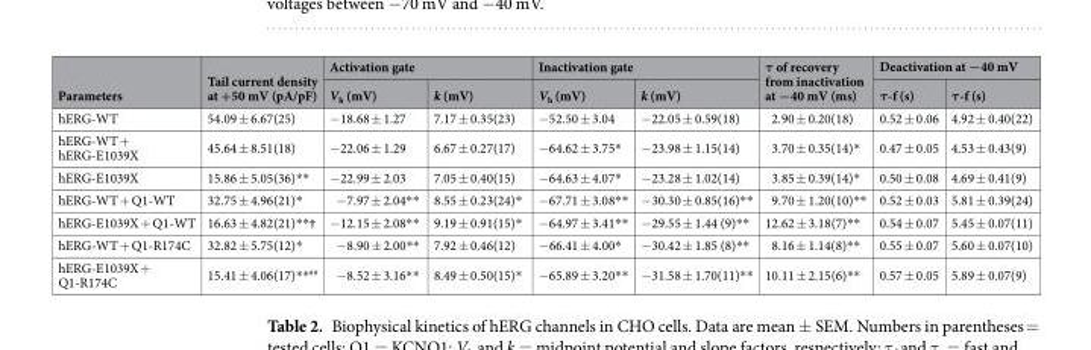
<table><thead><tr><td rowspan="2">Parameters</td><td rowspan="2">Tail current density at +50 mV (pA/pF)</td><td colspan="2">Activation gate</td><td colspan="2">Inactivation gate</td><td rowspan="2">τ of recovery from inactivation at −40 mV (ms)</td><td colspan="2">Deactivation at −40 mV</td></tr><tr><td>V<sub>h</sub> (mV)</td><td>k (mV)</td><td>V<sub>h</sub> (mV)</td><td>k (mV)</td><td>τ-f (s)</td><td>τ-f (s)</td></tr></thead><tbody><tr><td>hERG-WT</td><td>54.09 ± 6.67(25)</td><td>−18.68 ± 1.27</td><td>7.17 ± 0.35(23)</td><td>−52.50 ± 3.04</td><td>−22.05 ± 0.59(18)</td><td>2.90 ± 0.20(18)</td><td>0.52 ± 0.06</td><td>4.92 ± 0.40(22)</td></tr><tr><td>hERG-WT + hERG-E1039X</td><td>45.64 ± 8.51(18)</td><td>−22.06 ± 1.29</td><td>6.67 ± 0.27(17)</td><td>−64.62 ± 3.75*</td><td>−23.98 ± 1.15(14)</td><td>3.70 ± 0.35(14)*</td><td>0.47 ± 0.05</td><td>4.53 ± 0.43(9)</td></tr><tr><td>hERG-E1039X</td><td>15.86 ± 5.05(36)**</td><td>−22.99 ± 2.03</td><td>7.05 ± 0.40(15)</td><td>−64.63 ± 4.07*</td><td>−23.28 ± 1.02(14)</td><td>3.85 ± 0.39(14)*</td><td>0.50 ± 0.08</td><td>4.69 ± 0.41(9)</td></tr><tr><td>hERG-WT + Q1-WT</td><td>32.75 ± 4.96(21)*</td><td>−7.97 ± 2.04**</td><td>8.55 ± 0.23(24)*</td><td>−67.71 ± 3.08**</td><td>−30.30 ± 0.85(16)**</td><td>9.70 ± 1.20(10)**</td><td>0.52 ± 0.03</td><td>5.81 ± 0.39(24)</td></tr><tr><td>hERG-E1039X + Q1-WT</td><td>16.63 ± 4.82(21)**†</td><td>−12.15 ± 2.08**</td><td>9.19 ± 0.91(15)*</td><td>−64.97 ± 3.41**</td><td>−29.55 ± 1.44 (9)**</td><td>12.62 ± 3.18(7)**</td><td>0.54 ± 0.07</td><td>5.45 ± 0.07(11)</td></tr><tr><td>hERG-WT + Q1-R174C</td><td>32.82 ± 5.75(12)*</td><td>−8.90 ± 2.00**</td><td>7.92 ± 0.46(12)</td><td>−66.41 ± 4.00*</td><td>−30.42 ± 1.85 (8)**</td><td>8.16 ± 1.14(8)**</td><td>0.55 ± 0.07</td><td>5.60 ± 0.07(10)</td></tr><tr><td>hERG-E1039X + Q1-R174C</td><td>15.41 ± 4.06(17)**<sup>##</sup></td><td>−8.52 ± 3.16**</td><td>8.49 ± 0.50(15)*</td><td>−65.89 ± 3.20**</td><td>−31.58 ± 1.70(11)**</td><td>10.11 ± 2.15(6)**</td><td>0.57 ± 0.05</td><td>5.89 ± 0.07(9)</td></tr></tbody></table>